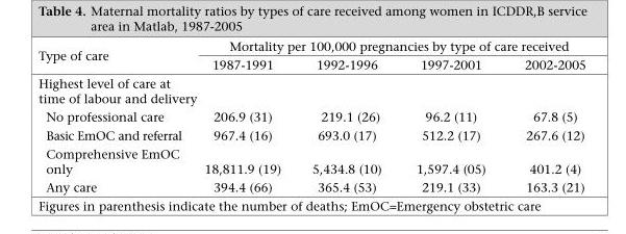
<table><thead><tr><td rowspan="2">Type of care</td><td colspan="4">Mortality per 100,000 pregnancies by type of care received</td></tr><tr><td>1987-1991</td><td>1992-1996</td><td>1997-2001</td><td>2002-2005</td></tr></thead><tbody><tr><td colspan="5">Highest level of care at time of labour and delivery</td></tr><tr><td>No professional care</td><td>206.9 (31)</td><td>219.1 (26)</td><td>96.2 (11)</td><td>67.8 (5)</td></tr><tr><td>Basic EmOC and referral</td><td>967.4 (16)</td><td>693.0 (17)</td><td>512.2 (17)</td><td>267.6 (12)</td></tr><tr><td>Comprehensive EmOC only</td><td>18,811.9 (19)</td><td>5,434.8 (10)</td><td>1,597.4 (05)</td><td>401.2 (4)</td></tr><tr><td>Any care</td><td>394.4 (66)</td><td>365.4 (53)</td><td>219.1 (33)</td><td>163.3 (21)</td></tr></tbody></table>